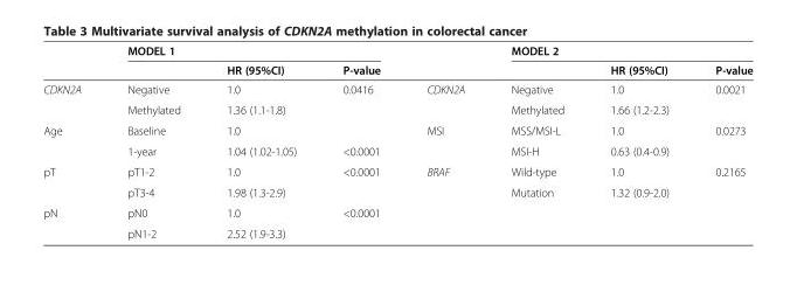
<table><thead><tr><td rowspan="2"></td><td colspan="3">MODEL 1</td><td rowspan="2"></td><td colspan="3">MODEL 2</td></tr><tr><td></td><td>HR (95%CI)</td><td>P-value</td><td></td><td>HR (95%CI)</td><td>P-value</td></tr></thead><tbody><tr><td rowspan="2">CDKN2A</td><td>Negative</td><td>1.0</td><td>0.0416</td><td>CDKN2A</td><td>Negative</td><td>1.0</td><td>0.0021</td></tr><tr><td>Methylated</td><td>1.36 (1.1-1.8)</td><td></td><td></td><td>Methylated</td><td>1.66 (1.2-2.3)</td><td></td></tr><tr><td rowspan="2">Age</td><td>Baseline</td><td>1.0</td><td></td><td>MSI</td><td>MSS/MSI-L</td><td>1.0</td><td>0.0273</td></tr><tr><td>1-year</td><td>1.04 (1.02-1.05)</td><td>&lt;0.0001</td><td></td><td>MSI-H</td><td>0.63 (0.4-0.9)</td><td></td></tr><tr><td rowspan="2">pT</td><td>pT1-2</td><td>1.0</td><td>&lt;0.0001</td><td>BRAF</td><td>Wild-type</td><td>1.0</td><td>0.2165</td></tr><tr><td>pT3-4</td><td>1.98 (1.3-2.9)</td><td></td><td></td><td>Mutation</td><td>1.32 (0.9-2.0)</td><td></td></tr><tr><td rowspan="2">pN</td><td>pN0</td><td>1.0</td><td>&lt;0.0001</td><td></td><td></td><td></td><td></td></tr><tr><td>pN1-2</td><td>2.52 (1.9-3.3)</td><td></td><td></td><td></td><td></td><td></td></tr></tbody></table>